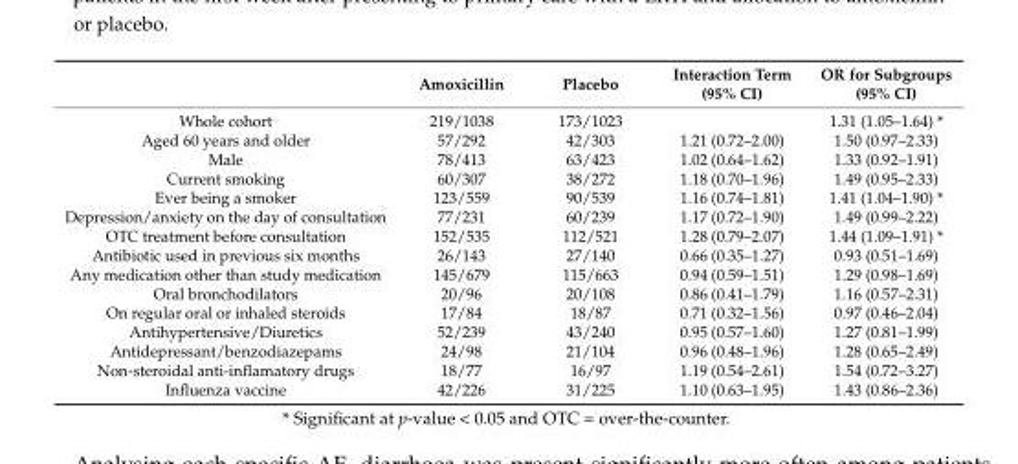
<table><thead><tr><td></td><td>Amoxicillin</td><td>Placebo</td><td>Interaction Term (95% CI)</td><td>OR for Subgroups (95% CI)</td></tr></thead><tbody><tr><td>Whole cohort</td><td>219/1038</td><td>173/1023</td><td></td><td>1.31 (1.05–1.64) *</td></tr><tr><td>Aged 60 years and older</td><td>57/292</td><td>42/303</td><td>1.21 (0.72–2.00)</td><td>1.50 (0.97–2.33)</td></tr><tr><td>Male</td><td>78/413</td><td>63/423</td><td>1.02 (0.64–1.62)</td><td>1.33 (0.92–1.91)</td></tr><tr><td>Current smoking</td><td>60/307</td><td>38/272</td><td>1.18 (0.70–1.96)</td><td>1.49 (0.95–2.33)</td></tr><tr><td>Ever being a smoker</td><td>123/559</td><td>90/539</td><td>1.16 (0.74–1.81)</td><td>1.41 (1.04–1.90) *</td></tr><tr><td>Depression/anxiety on the day of consultation</td><td>77/231</td><td>60/239</td><td>1.17 (0.72–1.90)</td><td>1.49 (0.99–2.22)</td></tr><tr><td>OTC treatment before consultation</td><td>152/535</td><td>112/521</td><td>1.28 (0.79–2.07)</td><td>1.44 (1.09–1.91) *</td></tr><tr><td>Antibiotic used in previous six months</td><td>26/143</td><td>27/140</td><td>0.66 (0.35–1.27)</td><td>0.93 (0.51–1.69)</td></tr><tr><td>Any medication other than study medication</td><td>145/679</td><td>115/663</td><td>0.94 (0.59–1.51)</td><td>1.29 (0.98–1.69)</td></tr><tr><td>Oral bronchodilators</td><td>20/96</td><td>20/108</td><td>0.86 (0.41–1.79)</td><td>1.16 (0.57–2.31)</td></tr><tr><td>On regular oral or inhaled steroids</td><td>17/84</td><td>18/87</td><td>0.71 (0.32–1.56)</td><td>0.97 (0.46–2.04)</td></tr><tr><td>Antihypertensive/Diuretics</td><td>52/239</td><td>43/240</td><td>0.95 (0.57–1.60)</td><td>1.27 (0.81–1.99)</td></tr><tr><td>Antidepressant/benzodiazepams</td><td>24/98</td><td>21/104</td><td>0.96 (0.48–1.96)</td><td>1.28 (0.65–2.49)</td></tr><tr><td>Non-steroidal anti-inflamatory drugs</td><td>18/77</td><td>16/97</td><td>1.19 (0.54–2.61)</td><td>1.54 (0.72–3.27)</td></tr><tr><td>Influenza vaccine</td><td>42/226</td><td>31/225</td><td>1.10 (0.63–1.95)</td><td>1.43 (0.86–2.36)</td></tr></tbody></table>